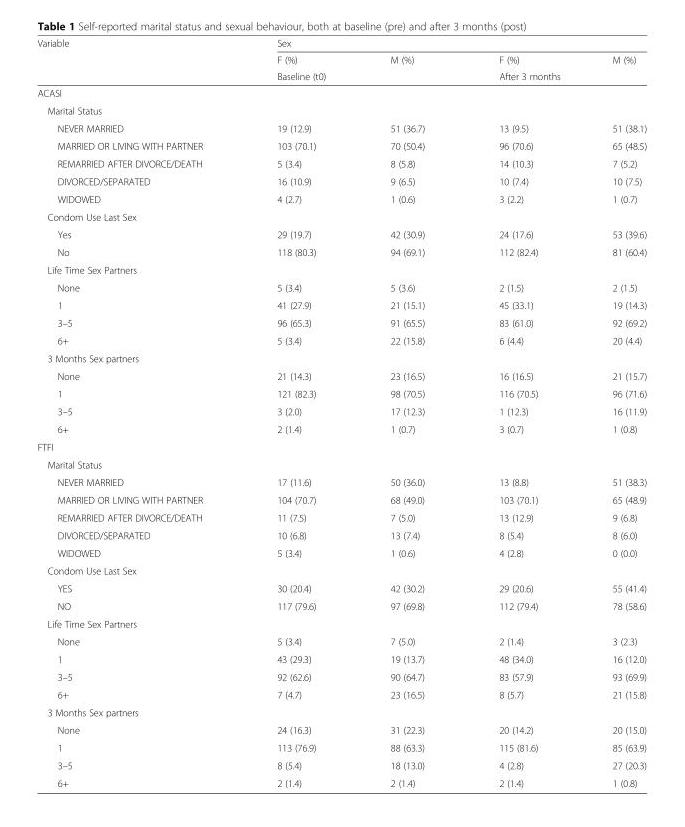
<table><thead><tr><td rowspan="3">Variable</td><td colspan="4">Sex</td></tr><tr><td>F (%)</td><td>M (%)</td><td>F (%)</td><td>M (%)</td></tr><tr><td colspan="2">Baseline (t0)</td><td colspan="2">After 3 months</td></tr></thead><tbody><tr><td colspan="5">ACASI</td></tr><tr><td colspan="5">Marital Status</td></tr><tr><td>NEVER MARRIED</td><td>19 (12.9)</td><td>51 (36.7)</td><td>13 (9.5)</td><td>51 (38.1)</td></tr><tr><td>MARRIED OR LIVING WITH PARTNER</td><td>103 (70.1)</td><td>70 (50.4)</td><td>96 (70.6)</td><td>65 (48.5)</td></tr><tr><td>REMARRIED AFTER DIVORCE/DEATH</td><td>5 (3.4)</td><td>8 (5.8)</td><td>14 (10.3)</td><td>7 (5.2)</td></tr><tr><td>DIVORCED/SEPARATED</td><td>16 (10.9)</td><td>9 (6.5)</td><td>10 (7.4)</td><td>10 (7.5)</td></tr><tr><td>WIDOWED</td><td>4 (2.7)</td><td>1 (0.6)</td><td>3 (2.2)</td><td>1 (0.7)</td></tr><tr><td colspan="5">Condom Use Last Sex</td></tr><tr><td>Yes</td><td>29 (19.7)</td><td>42 (30.9)</td><td>24 (17.6)</td><td>53 (39.6)</td></tr><tr><td>No</td><td>118 (80.3)</td><td>94 (69.1)</td><td>112 (82.4)</td><td>81 (60.4)</td></tr><tr><td colspan="5">Life Time Sex Partners</td></tr><tr><td>None</td><td>5 (3.4)</td><td>5 (3.6)</td><td>2 (1.5)</td><td>2 (1.5)</td></tr><tr><td>1</td><td>41 (27.9)</td><td>21 (15.1)</td><td>45 (33.1)</td><td>19 (14.3)</td></tr><tr><td>3–5</td><td>96 (65.3)</td><td>91 (65.5)</td><td>83 (61.0)</td><td>92 (69.2)</td></tr><tr><td>6+</td><td>5 (3.4)</td><td>22 (15.8)</td><td>6 (4.4)</td><td>20 (4.4)</td></tr><tr><td colspan="5">3 Months Sex partners</td></tr><tr><td>None</td><td>21 (14.3)</td><td>23 (16.5)</td><td>16 (16.5)</td><td>21 (15.7)</td></tr><tr><td>1</td><td>121 (82.3)</td><td>98 (70.5)</td><td>116 (70.5)</td><td>96 (71.6)</td></tr><tr><td>3–5</td><td>3 (2.0)</td><td>17 (12.3)</td><td>1 (12.3)</td><td>16 (11.9)</td></tr><tr><td>6+</td><td>2 (1.4)</td><td>1 (0.7)</td><td>3 (0.7)</td><td>1 (0.8)</td></tr><tr><td colspan="5">FTFI</td></tr><tr><td colspan="5">Marital Status</td></tr><tr><td>NEVER MARRIED</td><td>17 (11.6)</td><td>50 (36.0)</td><td>13 (8.8)</td><td>51 (38.3)</td></tr><tr><td>MARRIED OR LIVING WITH PARTNER</td><td>104 (70.7)</td><td>68 (49.0)</td><td>103 (70.1)</td><td>65 (48.9)</td></tr><tr><td>REMARRIED AFTER DIVORCE/DEATH</td><td>11 (7.5)</td><td>7 (5.0)</td><td>13 (12.9)</td><td>9 (6.8)</td></tr><tr><td>DIVORCED/SEPARATED</td><td>10 (6.8)</td><td>13 (7.4)</td><td>8 (5.4)</td><td>8 (6.0)</td></tr><tr><td>WIDOWED</td><td>5 (3.4)</td><td>1 (0.6)</td><td>4 (2.8)</td><td>0 (0.0)</td></tr><tr><td colspan="5">Condom Use Last Sex</td></tr><tr><td>YES</td><td>30 (20.4)</td><td>42 (30.2)</td><td>29 (20.6)</td><td>55 (41.4)</td></tr><tr><td>NO</td><td>117 (79.6)</td><td>97 (69.8)</td><td>112 (79.4)</td><td>78 (58.6)</td></tr><tr><td colspan="5">Life Time Sex Partners</td></tr><tr><td>None</td><td>5 (3.4)</td><td>7 (5.0)</td><td>2 (1.4)</td><td>3 (2.3)</td></tr><tr><td>1</td><td>43 (29.3)</td><td>19 (13.7)</td><td>48 (34.0)</td><td>16 (12.0)</td></tr><tr><td>3–5</td><td>92 (62.6)</td><td>90 (64.7)</td><td>83 (57.9)</td><td>93 (69.9)</td></tr><tr><td>6+</td><td>7 (4.7)</td><td>23 (16.5)</td><td>8 (5.7)</td><td>21 (15.8)</td></tr><tr><td colspan="5">3 Months Sex partners</td></tr><tr><td>None</td><td>24 (16.3)</td><td>31 (22.3)</td><td>20 (14.2)</td><td>20 (15.0)</td></tr><tr><td>1</td><td>113 (76.9)</td><td>88 (63.3)</td><td>115 (81.6)</td><td>85 (63.9)</td></tr><tr><td>3–5</td><td>8 (5.4)</td><td>18 (13.0)</td><td>4 (2.8)</td><td>27 (20.3)</td></tr><tr><td>6+</td><td>2 (1.4)</td><td>2 (1.4)</td><td>2 (1.4)</td><td>1 (0.8)</td></tr></tbody></table>